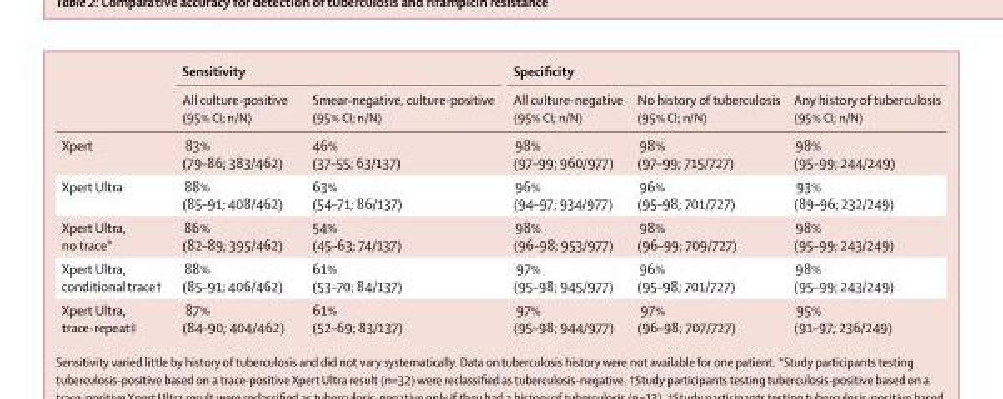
<table><thead><tr><td rowspan="2"></td><td colspan="2">Sensitivity</td><td colspan="3">Specificity</td></tr><tr><td>All culture-positive (95% CI; n/N)</td><td>Smear-negative, culture-positive (95% CI; n/N)</td><td>All culture-negative (95% CI; n/N)</td><td>No history of tuberculosis (95% CI; n/N)</td><td>Any history of tuberculosis (95% CI; n/N)</td></tr></thead><tbody><tr><td>Xpert</td><td>83% (79–86; 383/462)</td><td>46% (37–55; 63/137)</td><td>98% (97–99; 960/977)</td><td>98% (97–99; 715/727)</td><td>98% (95–99; 244/249)</td></tr><tr><td>Xpert Ultra</td><td>88% (85–91; 408/462)</td><td>63% (54–71; 86/137)</td><td>96% (94–97; 934/977)</td><td>96% (95–98; 701/727)</td><td>93% (89–96; 232/249)</td></tr><tr><td>Xpert Ultra, no trace*</td><td>86% (82–89; 395/462)</td><td>54% (45–63; 74/137)</td><td>98% (96–98; 953/977)</td><td>98% (96–99; 709/727)</td><td>98% (95–99; 243/249)</td></tr><tr><td>Xpert Ultra, conditional trace†</td><td>88% (85–91; 406/462)</td><td>61% (53–70; 84/137)</td><td>97% (95–98; 945/977)</td><td>96% (95–98; 701/727)</td><td>98% (95–99; 243/249)</td></tr><tr><td>Xpert Ultra, trace-repeat‡</td><td>87% (84–90; 404/462)</td><td>61% (52–69; 83/137)</td><td>97% (95–98; 944/977)</td><td>97% (96–98; 707/727)</td><td>95% (91–97; 236/249)</td></tr></tbody></table>